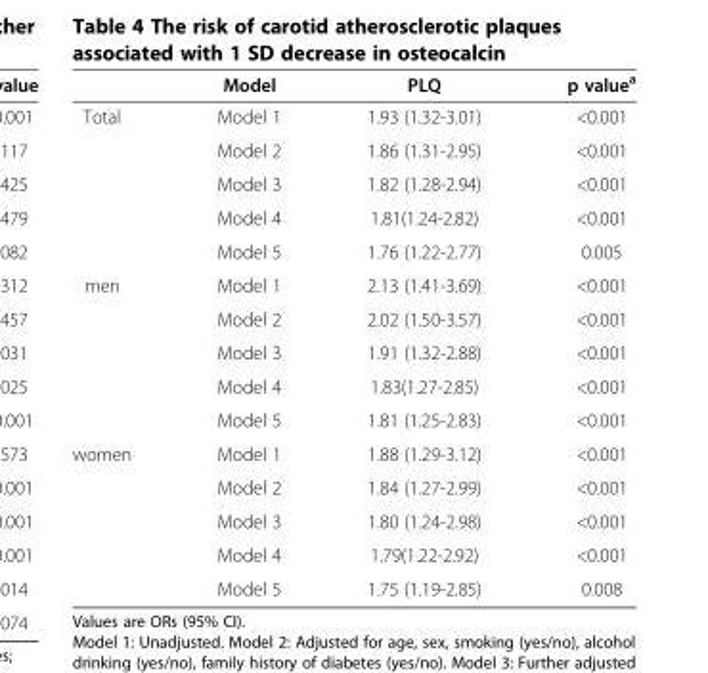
<table><thead><tr><td></td><td>Model</td><td>PLQ</td><td>p value<sup>a</sup></td></tr></thead><tbody><tr><td rowspan="5">Total</td><td>Model 1</td><td>1.93 (1.32-3.01)</td><td>&lt;0.001</td></tr><tr><td>Model 2</td><td>1.86 (1.31-2.95)</td><td>&lt;0.001</td></tr><tr><td>Model 3</td><td>1.82 (1.28-2.94)</td><td>&lt;0.001</td></tr><tr><td>Model 4</td><td>1.81(1.24-2.82)</td><td>&lt;0.001</td></tr><tr><td>Model 5</td><td>1.76 (1.22-2.77)</td><td>0.005</td></tr><tr><td rowspan="5">men</td><td>Model 1</td><td>2.13 (1.41-3.69)</td><td>&lt;0.001</td></tr><tr><td>Model 2</td><td>2.02 (1.50-3.57)</td><td>&lt;0.001</td></tr><tr><td>Model 3</td><td>1.91 (1.32-2.88)</td><td>&lt;0.001</td></tr><tr><td>Model 4</td><td>1.83(1.27-2.85)</td><td>&lt;0.001</td></tr><tr><td>Model 5</td><td>1.81 (1.25-2.83)</td><td>&lt;0.001</td></tr><tr><td rowspan="5">women</td><td>Model 1</td><td>1.88 (1.29-3.12)</td><td>&lt;0.001</td></tr><tr><td>Model 2</td><td>1.84 (1.27-2.99)</td><td>&lt;0.001</td></tr><tr><td>Model 3</td><td>1.80 (1.24-2.98)</td><td>&lt;0.001</td></tr><tr><td>Model 4</td><td>1.79(1.22-2.92)</td><td>&lt;0.001</td></tr><tr><td>Model 5</td><td>1.75 (1.19-2.85)</td><td>0.008</td></tr></tbody></table>